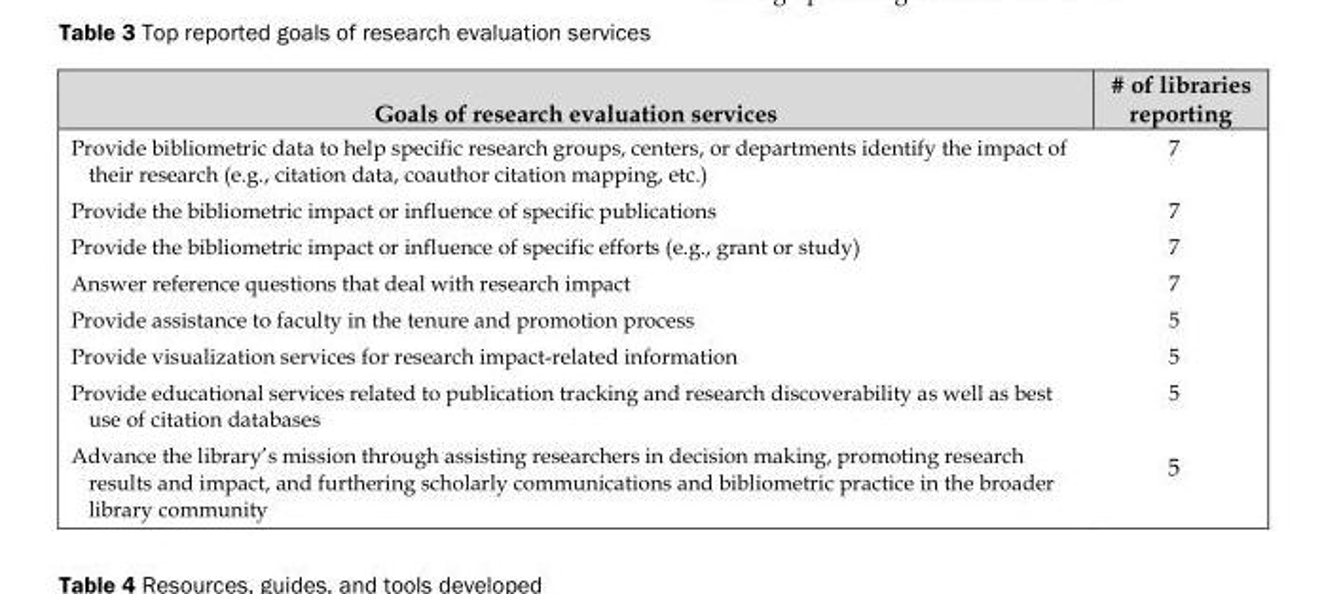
<table><thead><tr><td>Goals of research evaluation services</td><td># of libraries reporting</td></tr></thead><tbody><tr><td>Provide bibliometric data to help specific research groups, centers, or departments identify the impact of their research (e.g., citation data, coauthor citation mapping, etc.)</td><td>7</td></tr><tr><td>Provide the bibliometric impact or influence of specific publications</td><td>7</td></tr><tr><td>Provide the bibliometric impact or influence of specific efforts (e.g., grant or study)</td><td>7</td></tr><tr><td>Answer reference questions that deal with research impact</td><td>7</td></tr><tr><td>Provide assistance to faculty in the tenure and promotion process</td><td>5</td></tr><tr><td>Provide visualization services for research impact-related information</td><td>5</td></tr><tr><td>Provide educational services related to publication tracking and research discoverability as well as best use of citation databases</td><td>5</td></tr><tr><td>Advance the library’s mission through assisting researchers in decision making, promoting research results and impact, and furthering scholarly communications and bibliometric practice in the broader library community</td><td>5</td></tr></tbody></table>